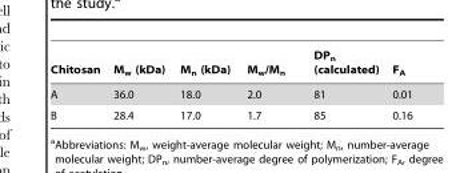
<table><thead><tr><td>Chitosan</td><td>M<sub>w</sub> (kDa)</td><td>M<sub>n</sub> (kDa)</td><td>M<sub>w</sub>/M<sub>n</sub></td><td>DP<sub>n</sub> (calculated)</td><td>F<sub>A</sub></td></tr></thead><tbody><tr><td>A</td><td>36.0</td><td>18.0</td><td>2.0</td><td>81</td><td>0.01</td></tr><tr><td>B</td><td>28.4</td><td>17.0</td><td>1.7</td><td>85</td><td>0.16</td></tr></tbody></table>